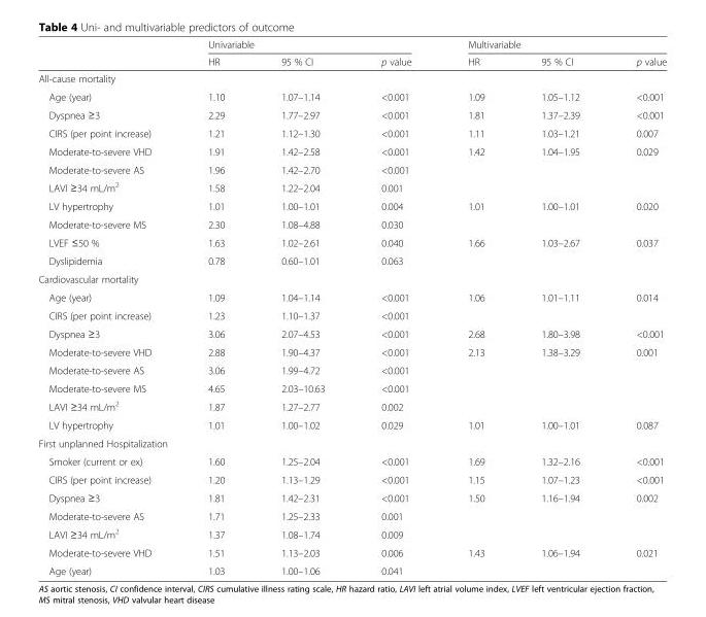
<table><thead><tr><td rowspan="2"></td><td colspan="3">Univariable</td><td colspan="3">Multivariable</td></tr><tr><td>HR</td><td>95 % CI</td><td>p value</td><td>HR</td><td>95 % CI</td><td>p value</td></tr></thead><tbody><tr><td colspan="7">All-cause mortality</td></tr><tr><td>Age (year)</td><td>1.10</td><td>1.07–1.14</td><td>&lt;0.001</td><td>1.09</td><td>1.05–1.12</td><td>&lt;0.001</td></tr><tr><td>Dyspnea ≥3</td><td>2.29</td><td>1.77–2.97</td><td>&lt;0.001</td><td>1.81</td><td>1.37–2.39</td><td>&lt;0.001</td></tr><tr><td>CIRS (per point increase)</td><td>1.21</td><td>1.12–1.30</td><td>&lt;0.001</td><td>1.11</td><td>1.03–1.21</td><td>0.007</td></tr><tr><td>Moderate-to-severe VHD</td><td>1.91</td><td>1.42–2.58</td><td>&lt;0.001</td><td>1.42</td><td>1.04–1.95</td><td>0.029</td></tr><tr><td>Moderate-to-severe AS</td><td>1.96</td><td>1.42–2.70</td><td>&lt;0.001</td><td></td><td></td><td></td></tr><tr><td>LAVI ≥34 mL/m<sup>2</sup></td><td>1.58</td><td>1.22–2.04</td><td>0.001</td><td></td><td></td><td></td></tr><tr><td>LV hypertrophy</td><td>1.01</td><td>1.00–1.01</td><td>0.004</td><td>1.01</td><td>1.00–1.01</td><td>0.020</td></tr><tr><td>Moderate-to-severe MS</td><td>2.30</td><td>1.08–4.88</td><td>0.030</td><td></td><td></td><td></td></tr><tr><td>LVEF ≤50 %</td><td>1.63</td><td>1.02–2.61</td><td>0.040</td><td>1.66</td><td>1.03–2.67</td><td>0.037</td></tr><tr><td>Dyslipidemia</td><td>0.78</td><td>0.60–1.01</td><td>0.063</td><td></td><td></td><td></td></tr><tr><td colspan="7">Cardiovascular mortality</td></tr><tr><td>Age (year)</td><td>1.09</td><td>1.04–1.14</td><td>&lt;0.001</td><td>1.06</td><td>1.01–1.11</td><td>0.014</td></tr><tr><td>CIRS (per point increase)</td><td>1.23</td><td>1.10–1.37</td><td>&lt;0.001</td><td></td><td></td><td></td></tr><tr><td>Dyspnea ≥3</td><td>3.06</td><td>2.07–4.53</td><td>&lt;0.001</td><td>2.68</td><td>1.80–3.98</td><td>&lt;0.001</td></tr><tr><td>Moderate-to-severe VHD</td><td>2.88</td><td>1.90–4.37</td><td>&lt;0.001</td><td>2.13</td><td>1.38–3.29</td><td>0.001</td></tr><tr><td>Moderate-to-severe AS</td><td>3.06</td><td>1.99–4.72</td><td>&lt;0.001</td><td></td><td></td><td></td></tr><tr><td>Moderate-to-severe MS</td><td>4.65</td><td>2.03–10.63</td><td>&lt;0.001</td><td></td><td></td><td></td></tr><tr><td>LAVI ≥34 mL/m<sup>2</sup></td><td>1.87</td><td>1.27–2.77</td><td>0.002</td><td></td><td></td><td></td></tr><tr><td>LV hypertrophy</td><td>1.01</td><td>1.00–1.02</td><td>0.029</td><td>1.01</td><td>1.00–1.01</td><td>0.087</td></tr><tr><td colspan="7">First unplanned Hospitalization</td></tr><tr><td>Smoker (current or ex)</td><td>1.60</td><td>1.25–2.04</td><td>&lt;0.001</td><td>1.69</td><td>1.32–2.16</td><td>&lt;0.001</td></tr><tr><td>CIRS (per point increase)</td><td>1.20</td><td>1.13–1.29</td><td>&lt;0.001</td><td>1.15</td><td>1.07–1.23</td><td>&lt;0.001</td></tr><tr><td>Dyspnea ≥3</td><td>1.81</td><td>1.42–2.31</td><td>&lt;0.001</td><td>1.50</td><td>1.16–1.94</td><td>0.002</td></tr><tr><td>Moderate-to-severe AS</td><td>1.71</td><td>1.25–2.33</td><td>0.001</td><td></td><td></td><td></td></tr><tr><td>LAVI ≥34 mL/m<sup>2</sup></td><td>1.37</td><td>1.08–1.74</td><td>0.009</td><td></td><td></td><td></td></tr><tr><td>Moderate-to-severe VHD</td><td>1.51</td><td>1.13–2.03</td><td>0.006</td><td>1.43</td><td>1.06–1.94</td><td>0.021</td></tr><tr><td>Age (year)</td><td>1.03</td><td>1.00–1.06</td><td>0.041</td><td></td><td></td><td></td></tr></tbody></table>